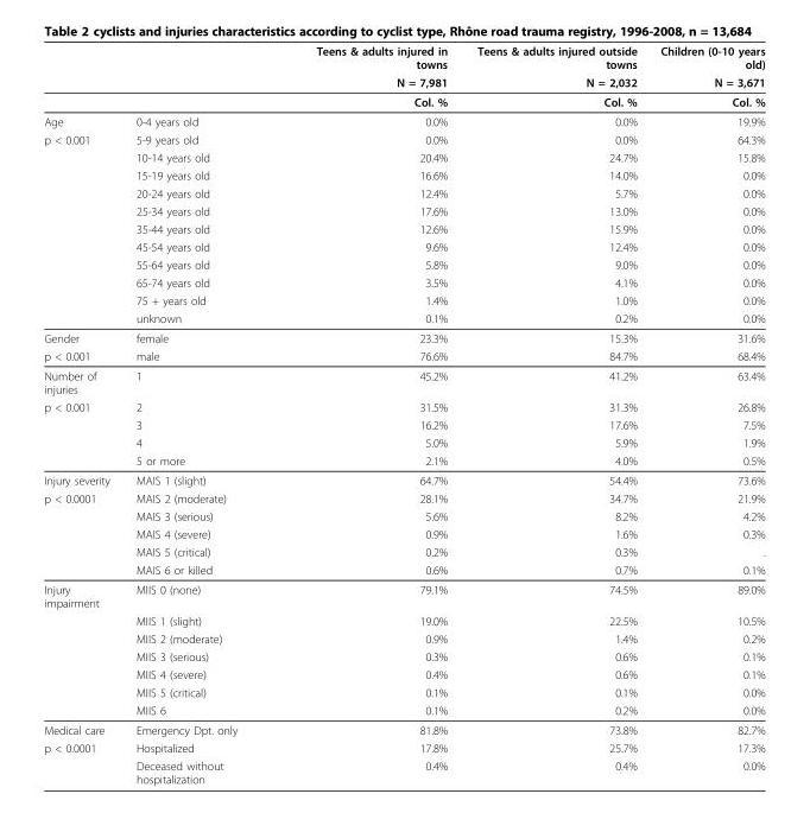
<table><thead><tr><td rowspan="2"></td><td rowspan="2"></td><td rowspan="2">Teens &amp; adults injured in towns N = 7,981</td><td rowspan="2">Teens &amp; adults injured outside towns N = 2,032</td><td rowspan="2">Children (0-10 years old) N = 3,671</td></tr><tr></tr></thead><tbody><tr><td></td><td></td><td>Col. %</td><td>Col. %</td><td>Col. %</td></tr><tr><td>Age</td><td>0-4 years old</td><td>0.0%</td><td>0.0%</td><td>19.9%</td></tr><tr><td rowspan="11">p &lt; 0.001</td><td>5-9 years old</td><td>0.0%</td><td>0.0%</td><td>64.3%</td></tr><tr><td>10-14 years old</td><td>20.4%</td><td>24.7%</td><td>15.8%</td></tr><tr><td>15-19 years old</td><td>16.6%</td><td>14.0%</td><td>0.0%</td></tr><tr><td>20-24 years old</td><td>12.4%</td><td>5.7%</td><td>0.0%</td></tr><tr><td>25-34 years old</td><td>17.6%</td><td>13.0%</td><td>0.0%</td></tr><tr><td>35-44 years old</td><td>12.6%</td><td>15.9%</td><td>0.0%</td></tr><tr><td>45-54 years old</td><td>9.6%</td><td>12.4%</td><td>0.0%</td></tr><tr><td>55-64 years old</td><td>5.8%</td><td>9.0%</td><td>0.0%</td></tr><tr><td>65-74 years old</td><td>3.5%</td><td>4.1%</td><td>0.0%</td></tr><tr><td>75 + years old</td><td>1.4%</td><td>1.0%</td><td>0.0%</td></tr><tr><td>unknown</td><td>0.1%</td><td>0.2%</td><td>0.0%</td></tr><tr><td>Gender</td><td>female</td><td>23.3%</td><td>15.3%</td><td>31.6%</td></tr><tr><td>p &lt; 0.001</td><td>male</td><td>76.6%</td><td>84.7%</td><td>68.4%</td></tr><tr><td>Number of injuries</td><td>1</td><td>45.2%</td><td>41.2%</td><td>63.4%</td></tr><tr><td rowspan="4">p &lt; 0.001</td><td>2</td><td>31.5%</td><td>31.3%</td><td>26.8%</td></tr><tr><td>3</td><td>16.2%</td><td>17.6%</td><td>7.5%</td></tr><tr><td>4</td><td>5.0%</td><td>5.9%</td><td>1.9%</td></tr><tr><td>5 or more</td><td>2.1%</td><td>4.0%</td><td>0.5%</td></tr><tr><td>Injury severity</td><td>MAIS 1 (slight)</td><td>64.7%</td><td>54.4%</td><td>73.6%</td></tr><tr><td rowspan="5">p &lt; 0.0001</td><td>MAIS 2 (moderate)</td><td>28.1%</td><td>34.7%</td><td>21.9%</td></tr><tr><td>MAIS 3 (serious)</td><td>5.6%</td><td>8.2%</td><td>4.2%</td></tr><tr><td>MAIS 4 (severe)</td><td>0.9%</td><td>1.6%</td><td>0.3%</td></tr><tr><td>MAIS 5 (critical)</td><td>0.2%</td><td>0.3%</td><td>.</td></tr><tr><td>MAIS 6 or killed</td><td>0.6%</td><td>0.7%</td><td>0.1%</td></tr><tr><td rowspan="7">Injury impairment</td><td>MIIS 0 (none)</td><td>79.1%</td><td>74.5%</td><td>89.0%</td></tr><tr><td>MIIS 1 (slight)</td><td>19.0%</td><td>22.5%</td><td>10.5%</td></tr><tr><td>MIIS 2 (moderate)</td><td>0.9%</td><td>1.4%</td><td>0.2%</td></tr><tr><td>MIIS 3 (serious)</td><td>0.3%</td><td>0.6%</td><td>0.1%</td></tr><tr><td>MIIS 4 (severe)</td><td>0.4%</td><td>0.6%</td><td>0.1%</td></tr><tr><td>MIIS 5 (critical)</td><td>0.1%</td><td>0.1%</td><td>0.0%</td></tr><tr><td>MIIS 6</td><td>0.1%</td><td>0.2%</td><td>0.0%</td></tr><tr><td>Medical care</td><td>Emergency Dpt. only</td><td>81.8%</td><td>73.8%</td><td>82.7%</td></tr><tr><td rowspan="2">p &lt; 0.0001</td><td>Hospitalized</td><td>17.8%</td><td>25.7%</td><td>17.3%</td></tr><tr><td>Deceased without hospitalization</td><td>0.4%</td><td>0.4%</td><td>0.0%</td></tr></tbody></table>